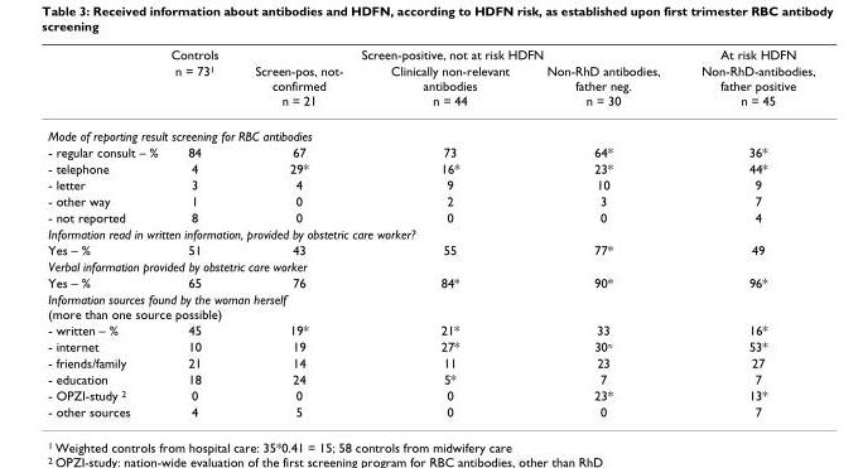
<table><thead><tr><td rowspan="2"></td><td rowspan="2">Controls n = 73<sup>1</sup></td><td colspan="3">Screen-positive, not at risk HDFN</td><td rowspan="2">At risk HDFN Non-RhD-antibodies, father positive n = 45</td></tr><tr><td>Screen-pos, not- confirmed n = 21</td><td>Clinically non-relevant antibodies n = 44</td><td>Non-RhD antibodies, father neg. n = 30</td></tr></thead><tbody><tr><td colspan="6">Mode of reporting result screening for RBC antibodies</td></tr><tr><td>- regular consult – %</td><td>84</td><td>67</td><td>73</td><td>64*</td><td>36*</td></tr><tr><td>- telephone</td><td>4</td><td>29*</td><td>16*</td><td>23*</td><td>44*</td></tr><tr><td>- letter</td><td>3</td><td>4</td><td>9</td><td>10</td><td>9</td></tr><tr><td>- other way</td><td>1</td><td>0</td><td>2</td><td>3</td><td>7</td></tr><tr><td>- not reported</td><td>8</td><td>0</td><td>0</td><td>0</td><td>4</td></tr><tr><td colspan="6">Information read in written information, provided by obstetric care worker?</td></tr><tr><td>Yes – %</td><td>51</td><td>43</td><td>55</td><td>77*</td><td>49</td></tr><tr><td colspan="6">Verbal information provided by obstetric care worker</td></tr><tr><td>Yes – %</td><td>65</td><td>76</td><td>84*</td><td>90*</td><td>96*</td></tr><tr><td colspan="6">Information sources found by the woman herself (more than one source possible)</td></tr><tr><td>- written – %</td><td>45</td><td>19*</td><td>21*</td><td>33</td><td>16*</td></tr><tr><td>- internet</td><td>10</td><td>19</td><td>27*</td><td>30<sup>≈</sup></td><td>53*</td></tr><tr><td>- friends/family</td><td>21</td><td>14</td><td>11</td><td>23</td><td>27</td></tr><tr><td>- education</td><td>18</td><td>24</td><td>5*</td><td>7</td><td>7</td></tr><tr><td>- OPZI-study <sup>2</sup></td><td>0</td><td>0</td><td>0</td><td>23*</td><td>13*</td></tr><tr><td>- other sources</td><td>4</td><td>5</td><td>0</td><td>0</td><td>7</td></tr></tbody></table>